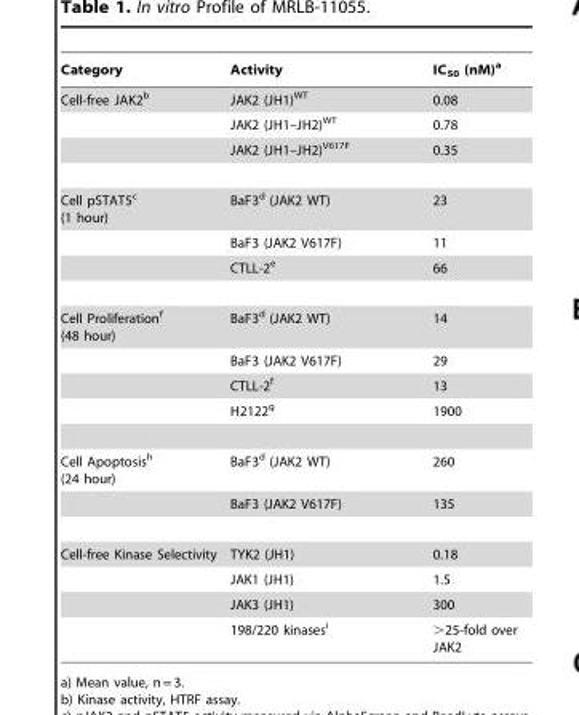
<table><thead><tr><td>Category</td><td>Activity</td><td>IC<sub>50</sub> (nM)<sup>a</sup></td></tr></thead><tbody><tr><td rowspan="3">Cell-free JAK2<sup>b</sup></td><td>JAK2 (JH1)<sup>WT</sup></td><td>0.08</td></tr><tr><td>JAK2 (JH1–JH2)<sup>WT</sup></td><td>0.78</td></tr><tr><td>JAK2 (JH1–JH2)<sup>V617F</sup></td><td>0.35</td></tr><tr><td rowspan="3">Cell pSTAT5<sup>c</sup> (1 hour)</td><td>BaF3<sup>d</sup> (JAK2 WT)</td><td>23</td></tr><tr><td>BaF3 (JAK2 V617F)</td><td>11</td></tr><tr><td>CTLL-2<sup>e</sup></td><td>66</td></tr><tr><td rowspan="4">Cell Proliferation<sup>f</sup> (48 hour)</td><td>BaF3<sup>d</sup> (JAK2 WT)</td><td>14</td></tr><tr><td>BaF3 (JAK2 V617F)</td><td>29</td></tr><tr><td>CTLL-2<sup>f</sup></td><td>13</td></tr><tr><td>H2122<sup>g</sup></td><td>1900</td></tr><tr><td rowspan="2">Cell Apoptosis<sup>h</sup> (24 hour)</td><td>BaF3<sup>d</sup> (JAK2 WT)</td><td>260</td></tr><tr><td>BaF3 (JAK2 V617F)</td><td>135</td></tr><tr><td rowspan="4">Cell-free Kinase Selectivity</td><td>TYK2 (JH1)</td><td>0.18</td></tr><tr><td>JAK1 (JH1)</td><td>1.5</td></tr><tr><td>JAK3 (JH1)</td><td>300</td></tr><tr><td>198/220 kinases<sup>i</sup></td><td>&gt;25-fold over JAK2</td></tr></tbody></table>